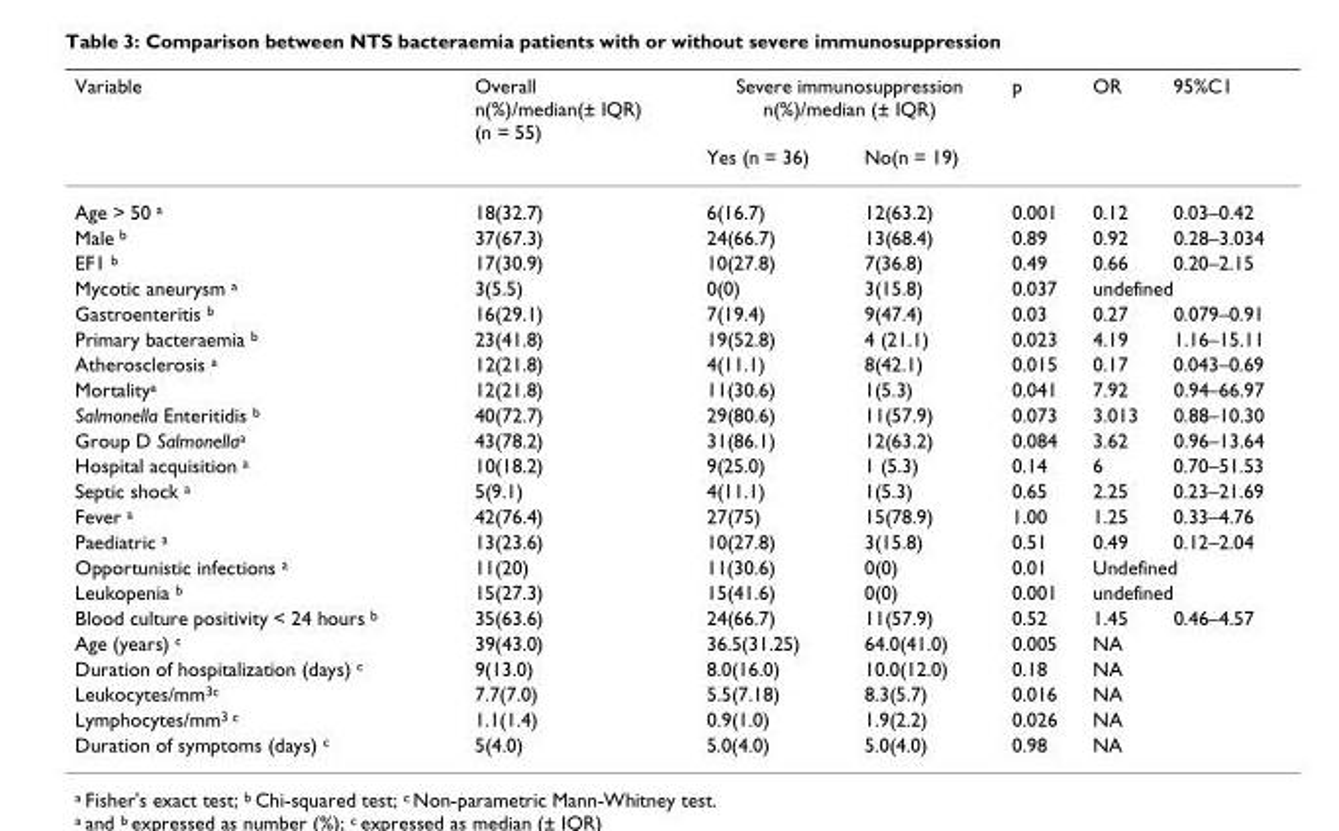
<table><thead><tr><td rowspan="2">Variable</td><td rowspan="2">Overall n(%)/median(± IQR) (n = 55)</td><td colspan="2">Severe immunosuppression n(%)/median (± IQR)</td><td rowspan="2">p</td><td rowspan="2">OR</td><td rowspan="2">95%C1</td></tr><tr><td>Yes (n = 36)</td><td>No(n = 19)</td></tr></thead><tbody><tr><td>Age &gt; 50 <sup>a</sup></td><td>18(32.7)</td><td>6(16.7)</td><td>12(63.2)</td><td>0.001</td><td>0.12</td><td>0.03–0.42</td></tr><tr><td>Male <sup>b</sup></td><td>37(67.3)</td><td>24(66.7)</td><td>13(68.4)</td><td>0.89</td><td>0.92</td><td>0.28–3.034</td></tr><tr><td>EF1 <sup>b</sup></td><td>17(30.9)</td><td>10(27.8)</td><td>7(36.8)</td><td>0.49</td><td>0.66</td><td>0.20–2.15</td></tr><tr><td>Mycotic aneurysm <sup>a</sup></td><td>3(5.5)</td><td>0(0)</td><td>3(15.8)</td><td>0.037</td><td colspan="2">undefined</td></tr><tr><td>Gastroenteritis <sup>b</sup></td><td>16(29.1)</td><td>7(19.4)</td><td>9(47.4)</td><td>0.03</td><td>0.27</td><td>0.079–0.91</td></tr><tr><td>Primary bacteraemia <sup>b</sup></td><td>23(41.8)</td><td>19(52.8)</td><td>4 (21.1)</td><td>0.023</td><td>4.19</td><td>1.16–15.11</td></tr><tr><td>Atherosclerosis <sup>a</sup></td><td>12(21.8)</td><td>4(11.1)</td><td>8(42.1)</td><td>0.015</td><td>0.17</td><td>0.043–0.69</td></tr><tr><td>Mortality<sup>a</sup></td><td>12(21.8)</td><td>11(30.6)</td><td>1(5.3)</td><td>0.041</td><td>7.92</td><td>0.94–66.97</td></tr><tr><td>Salmonella Enteritidis <sup>b</sup></td><td>40(72.7)</td><td>29(80.6)</td><td>11(57.9)</td><td>0.073</td><td>3.013</td><td>0.88–10.30</td></tr><tr><td>Group D Salmonella<sup>a</sup></td><td>43(78.2)</td><td>31(86.1)</td><td>12(63.2)</td><td>0.084</td><td>3.62</td><td>0.96–13.64</td></tr><tr><td>Hospital acquisition <sup>a</sup></td><td>10(18.2)</td><td>9(25.0)</td><td>1 (5.3)</td><td>0.14</td><td>6</td><td>0.70–51.53</td></tr><tr><td>Septic shock <sup>a</sup></td><td>5(9.1)</td><td>4(11.1)</td><td>1(5.3)</td><td>0.65</td><td>2.25</td><td>0.23–21.69</td></tr><tr><td>Fever <sup>a</sup></td><td>42(76.4)</td><td>27(75)</td><td>15(78.9)</td><td>1.00</td><td>1.25</td><td>0.33–4.76</td></tr><tr><td>Paediatric <sup>a</sup></td><td>13(23.6)</td><td>10(27.8)</td><td>3(15.8)</td><td>0.51</td><td>0.49</td><td>0.12–2.04</td></tr><tr><td>Opportunistic infections <sup>a</sup></td><td>11(20)</td><td>11(30.6)</td><td>0(0)</td><td>0.01</td><td colspan="2">Undefined</td></tr><tr><td>Leukopenia <sup>b</sup></td><td>15(27.3)</td><td>15(41.6)</td><td>0(0)</td><td>0.001</td><td colspan="2">undefined</td></tr><tr><td>Blood culture positivity &lt; 24 hours <sup>b</sup></td><td>35(63.6)</td><td>24(66.7)</td><td>11(57.9)</td><td>0.52</td><td>1.45</td><td>0.46–4.57</td></tr><tr><td>Age (years) <sup>c</sup></td><td>39(43.0)</td><td>36.5(31.25)</td><td>64.0(41.0)</td><td>0.005</td><td>NA</td><td></td></tr><tr><td>Duration of hospitalization (days) <sup>c</sup></td><td>9(13.0)</td><td>8.0(16.0)</td><td>10.0(12.0)</td><td>0.18</td><td>NA</td><td></td></tr><tr><td>Leukocytes/mm<sup>3c</sup></td><td>7.7(7.0)</td><td>5.5(7.18)</td><td>8.3(5.7)</td><td>0.016</td><td>NA</td><td></td></tr><tr><td>Lymphocytes/mm<sup>3 c</sup></td><td>1.1(1.4)</td><td>0.9(1.0)</td><td>1.9(2.2)</td><td>0.026</td><td>NA</td><td></td></tr><tr><td>Duration of symptoms (days) <sup>c</sup></td><td>5(4.0)</td><td>5.0(4.0)</td><td>5.0(4.0)</td><td>0.98</td><td>NA</td><td></td></tr></tbody></table>